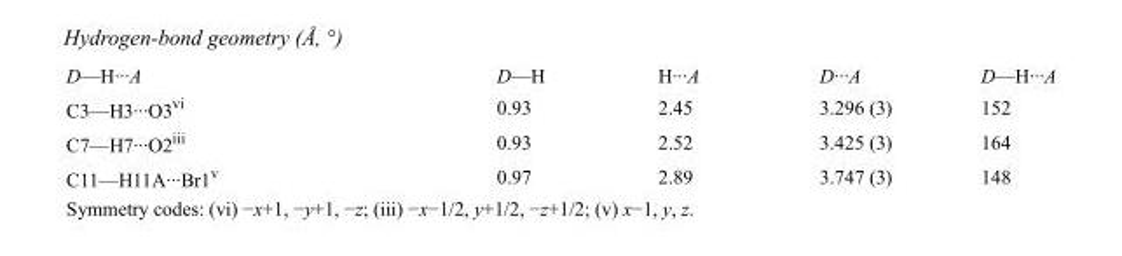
<table><tbody><tr><td>D—H···A</td><td>D—H</td><td>H···A</td><td>D···A</td><td>D—H···A</td></tr><tr><td>C3—H3···O3<sup>vi</sup></td><td>0.93</td><td>2.45</td><td>3.296 (3)</td><td>152</td></tr><tr><td>C7—H7···O2<sup>iii</sup></td><td>0.93</td><td>2.52</td><td>3.425 (3)</td><td>164</td></tr><tr><td>C11—H11A···Br1<sup>v</sup></td><td>0.97</td><td>2.89</td><td>3.747 (3)</td><td>148</td></tr></tbody></table>